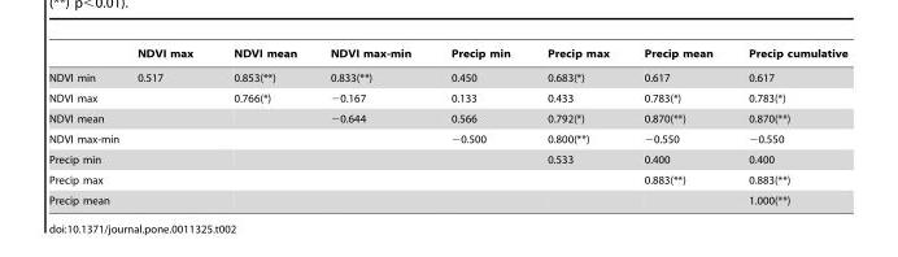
<table><thead><tr><td></td><td>NDVI max</td><td>NDVI mean</td><td>NDVI max-min</td><td>Precip min</td><td>Precip max</td><td>Precip mean</td><td>Precip cumulative</td></tr></thead><tbody><tr><td>NDVI min</td><td>0.517</td><td>0.853(**)</td><td>0.833(**)</td><td>0.450</td><td>0.683(*)</td><td>0.617</td><td>0.617</td></tr><tr><td>NDVI max</td><td></td><td>0.766(*)</td><td>−0.167</td><td>0.133</td><td>0.433</td><td>0.783(*)</td><td>0.783(*)</td></tr><tr><td>NDVI mean</td><td></td><td></td><td>−0.644</td><td>0.566</td><td>0.792(*)</td><td>0.870(**)</td><td>0.870(**)</td></tr><tr><td>NDVI max-min</td><td></td><td></td><td></td><td>−0.500</td><td>0.800(**)</td><td>−0.550</td><td>−0.550</td></tr><tr><td>Precip min</td><td></td><td></td><td></td><td></td><td>0.533</td><td>0.400</td><td>0.400</td></tr><tr><td>Precip max</td><td></td><td></td><td></td><td></td><td></td><td>0.883(**)</td><td>0.883(**)</td></tr><tr><td>Precip mean</td><td></td><td></td><td></td><td></td><td></td><td></td><td>1.000(**)</td></tr></tbody></table>